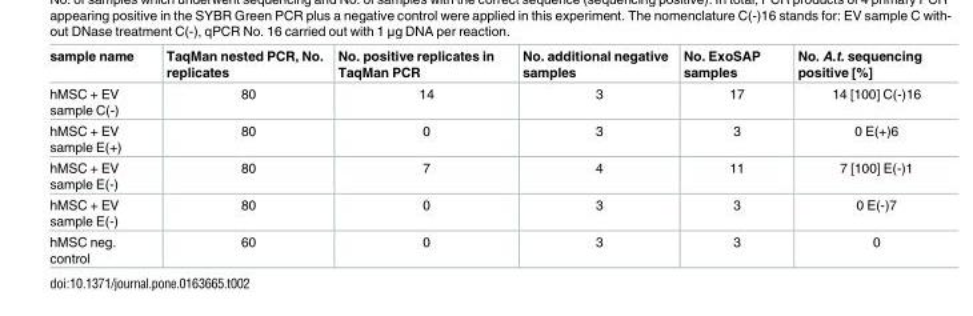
<table><thead><tr><td>sample name</td><td>TaqMan nested PCR, No. replicates</td><td>No. positive replicates in TaqMan PCR</td><td>No. additional negative samples</td><td>No. ExoSAP samples</td><td>No. A.t. sequencing positive [%]</td></tr></thead><tbody><tr><td>hMSC + EV sample C(-)</td><td>80</td><td>14</td><td>3</td><td>17</td><td>14 [100] C(-)16</td></tr><tr><td>hMSC + EV sample E(+)</td><td>80</td><td>0</td><td>3</td><td>3</td><td>0 E(+)6</td></tr><tr><td>hMSC + EV sample E(-)</td><td>80</td><td>7</td><td>4</td><td>11</td><td>7 [100] E(-)1</td></tr><tr><td>hMSC + EV sample E(-)</td><td>80</td><td>0</td><td>3</td><td>3</td><td>0 E(-)7</td></tr><tr><td>hMSC neg. control</td><td>60</td><td>0</td><td>3</td><td>3</td><td>0</td></tr></tbody></table>